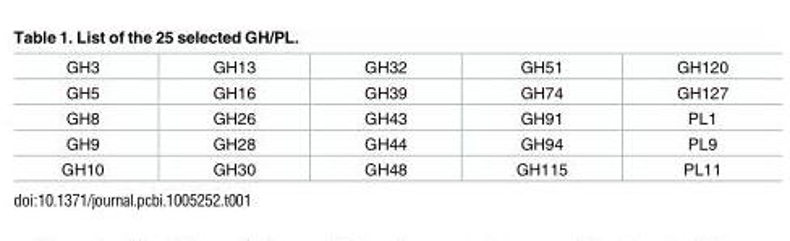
<table><tbody><tr><td>GH3</td><td>GH13</td><td>GH32</td><td>GH51</td><td>GH120</td></tr><tr><td>GH5</td><td>GH16</td><td>GH39</td><td>GH74</td><td>GH127</td></tr><tr><td>GH8</td><td>GH26</td><td>GH43</td><td>GH91</td><td>PL1</td></tr><tr><td>GH9</td><td>GH28</td><td>GH44</td><td>GH94</td><td>PL9</td></tr><tr><td>GH10</td><td>GH30</td><td>GH48</td><td>GH115</td><td>PL11</td></tr></tbody></table>